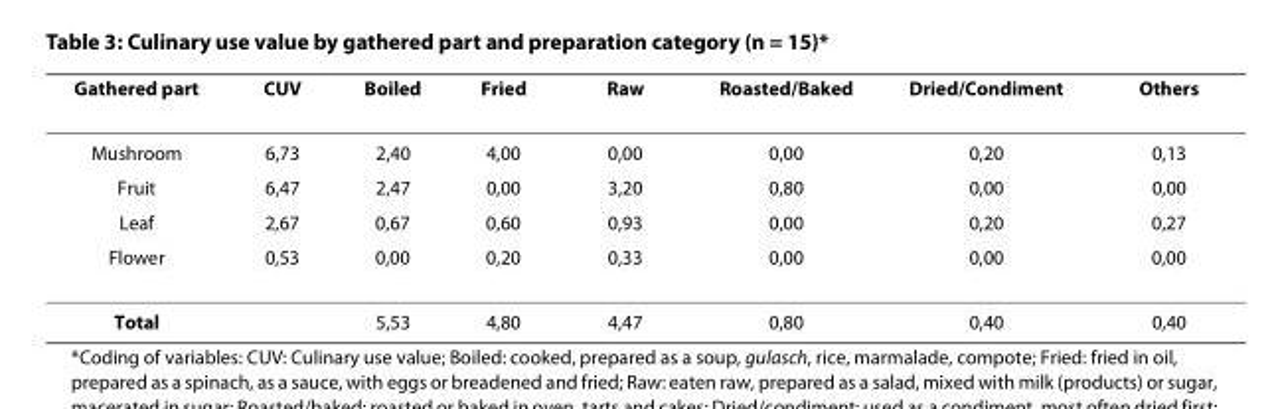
<table><thead><tr><td>Gathered part</td><td>CUV</td><td>Boiled</td><td>Fried</td><td>Raw</td><td>Roasted/Baked</td><td>Dried/Condiment</td><td>Others</td></tr></thead><tbody><tr><td>Mushroom</td><td>6,73</td><td>2,40</td><td>4,00</td><td>0,00</td><td>0,00</td><td>0,20</td><td>0,13</td></tr><tr><td>Fruit</td><td>6,47</td><td>2,47</td><td>0,00</td><td>3,20</td><td>0,80</td><td>0,00</td><td>0,00</td></tr><tr><td>Leaf</td><td>2,67</td><td>0,67</td><td>0,60</td><td>0,93</td><td>0,00</td><td>0,20</td><td>0,27</td></tr><tr><td>Flower</td><td>0,53</td><td>0,00</td><td>0,20</td><td>0,33</td><td>0,00</td><td>0,00</td><td>0,00</td></tr><tr><td>Total</td><td></td><td>5,53</td><td>4,80</td><td>4,47</td><td>0,80</td><td>0,40</td><td>0,40</td></tr></tbody></table>